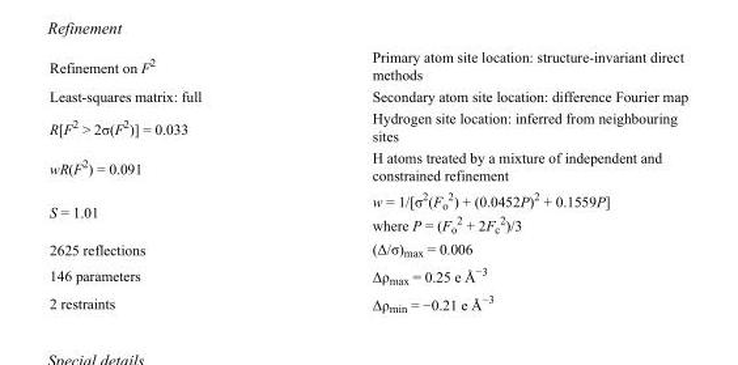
<table><tbody><tr><td>Refinement on F<sup>2</sup></td><td>Primary atom site location: structure-invariant direct methods</td></tr><tr><td>Least-squares matrix: full</td><td>Secondary atom site location: difference Fourier map</td></tr><tr><td>R[F<sup>2</sup> &gt; 2σ(F<sup>2</sup>)] = 0.033</td><td>Hydrogen site location: inferred from neighbouring sites</td></tr><tr><td>wR(F<sup>2</sup>) = 0.091</td><td>H atoms treated by a mixture of independent and constrained refinement</td></tr><tr><td>S = 1.01</td><td>w = 1/[σ<sup>2</sup>(F<sub>o</sub> <sup>2</sup>) + (0.0452P)<sup>2</sup> + 0.1559P] where P = (F<sub>o</sub> <sup>2</sup> + 2F<sub>c</sub> <sup>2</sup>)/3</td></tr><tr><td>2625 reflections</td><td>(Δ/σ)<sub>max</sub> = 0.006</td></tr><tr><td>146 parameters</td><td>Δρ<sub>max</sub> = 0.25 e Å<sup>−3</sup></td></tr><tr><td>2 restraints</td><td>Δρ<sub>min</sub> = −0.21 e Å<sup>−3</sup></td></tr></tbody></table>